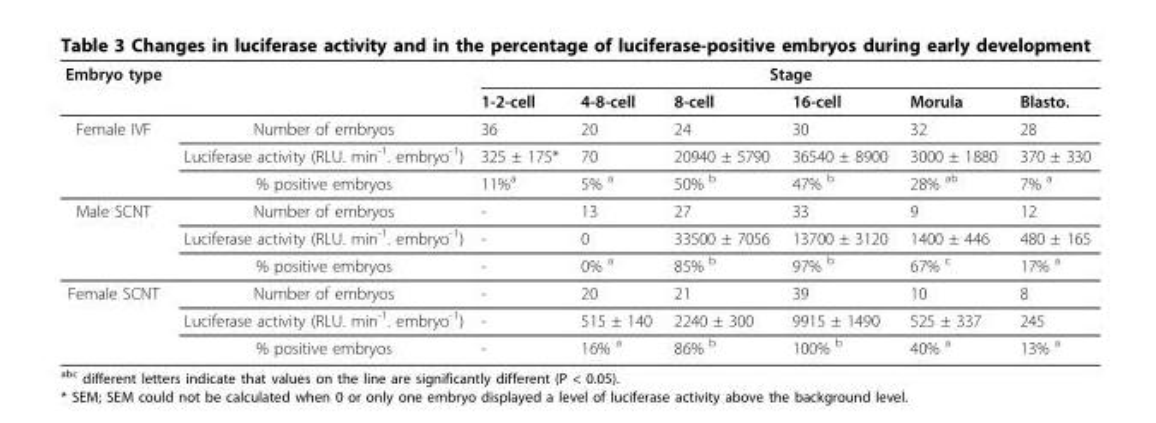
<table><thead><tr><td rowspan="2">Embryo type</td><td rowspan="2"></td><td colspan="6">Stage</td></tr><tr><td>1-2-cell</td><td>4-8-cell</td><td>8-cell</td><td>16-cell</td><td>Morula</td><td>Blasto.</td></tr></thead><tbody><tr><td rowspan="3">Female IVF</td><td>Number of embryos</td><td>36</td><td>20</td><td>24</td><td>30</td><td>32</td><td>28</td></tr><tr><td>Luciferase activity (RLU. min<sup>-1</sup>. embryo<sup>-1</sup>)</td><td>325 ± 175*</td><td>70</td><td>20940 ± 5790</td><td>36540 ± 8900</td><td>3000 ± 1880</td><td>370 ± 330</td></tr><tr><td>% positive embryos</td><td>11%<sup>a</sup></td><td>5% <sup>a</sup></td><td>50% <sup>b</sup></td><td>47% <sup>b</sup></td><td>28% <sup>ab</sup></td><td>7% <sup>a</sup></td></tr><tr><td rowspan="3">Male SCNT</td><td>Number of embryos</td><td>-</td><td>13</td><td>27</td><td>33</td><td>9</td><td>12</td></tr><tr><td>Luciferase activity (RLU. min<sup>-1</sup>. embryo<sup>-1</sup>)</td><td>-</td><td>0</td><td>33500 ± 7056</td><td>13700 ± 3120</td><td>1400 ± 446</td><td>480 ± 165</td></tr><tr><td>% positive embryos</td><td>-</td><td>0% <sup>a</sup></td><td>85% <sup>b</sup></td><td>97% <sup>b</sup></td><td>67% <sup>c</sup></td><td>17% <sup>a</sup></td></tr><tr><td rowspan="3">Female SCNT</td><td>Number of embryos</td><td>-</td><td>20</td><td>21</td><td>39</td><td>10</td><td>8</td></tr><tr><td>Luciferase activity (RLU. min<sup>-1</sup>. embryo<sup>-1</sup>)</td><td>-</td><td>515 ± 140</td><td>2240 ± 300</td><td>9915 ± 1490</td><td>525 ± 337</td><td>245</td></tr><tr><td>% positive embryos</td><td>-</td><td>16% <sup>a</sup></td><td>86% <sup>b</sup></td><td>100% <sup>b</sup></td><td>40% <sup>a</sup></td><td>13% <sup>a</sup></td></tr></tbody></table>